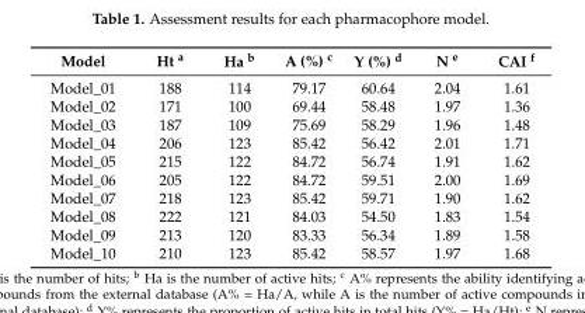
<table><thead><tr><td>Model</td><td>Ht <sup>a</sup></td><td>Ha <sup>b</sup></td><td>A (%) <sup>c</sup></td><td>Y (%) <sup>d</sup></td><td>N <sup>e</sup></td><td>CAI <sup>f</sup></td></tr></thead><tbody><tr><td>Model_01</td><td>188</td><td>114</td><td>79.17</td><td>60.64</td><td>2.04</td><td>1.61</td></tr><tr><td>Model_02</td><td>171</td><td>100</td><td>69.44</td><td>58.48</td><td>1.97</td><td>1.36</td></tr><tr><td>Model_03</td><td>187</td><td>109</td><td>75.69</td><td>58.29</td><td>1.96</td><td>1.48</td></tr><tr><td>Model_04</td><td>206</td><td>123</td><td>85.42</td><td>56.42</td><td>2.01</td><td>1.71</td></tr><tr><td>Model_05</td><td>215</td><td>122</td><td>84.72</td><td>56.74</td><td>1.91</td><td>1.62</td></tr><tr><td>Model_06</td><td>205</td><td>122</td><td>84.72</td><td>59.51</td><td>2.00</td><td>1.69</td></tr><tr><td>Model_07</td><td>218</td><td>123</td><td>85.42</td><td>59.71</td><td>1.90</td><td>1.62</td></tr><tr><td>Model_08</td><td>222</td><td>121</td><td>84.03</td><td>54.50</td><td>1.83</td><td>1.54</td></tr><tr><td>Model_09</td><td>213</td><td>120</td><td>83.33</td><td>56.34</td><td>1.89</td><td>1.58</td></tr><tr><td>Model_10</td><td>210</td><td>123</td><td>85.42</td><td>58.57</td><td>1.97</td><td>1.68</td></tr></tbody></table>